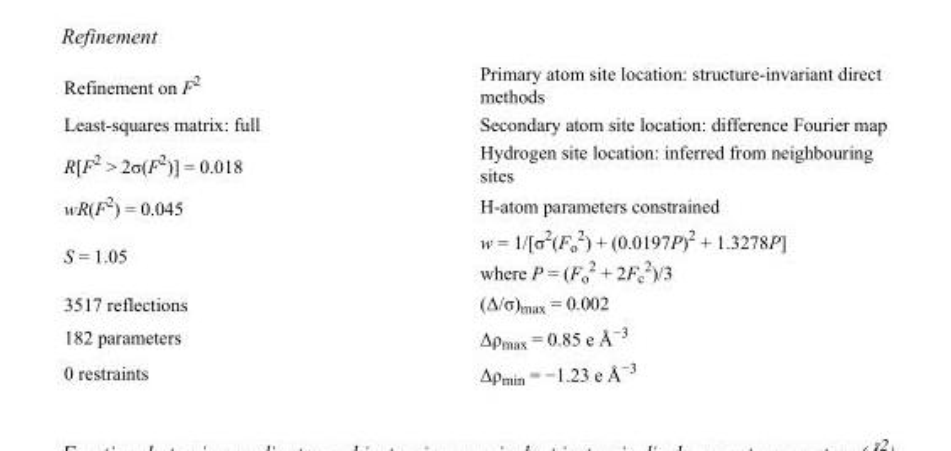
<table><tbody><tr><td>Refinement on F<sup>2</sup></td><td>Primary atom site location: structure-invariant direct methods</td></tr><tr><td>Least-squares matrix: full</td><td>Secondary atom site location: difference Fourier map</td></tr><tr><td>R[F<sup>2</sup> &gt; 2σ(F<sup>2</sup>)] = 0.018</td><td>Hydrogen site location: inferred from neighbouring sites</td></tr><tr><td>wR(F<sup>2</sup>) = 0.045</td><td>H-atom parameters constrained</td></tr><tr><td>S = 1.05</td><td>w = 1/[σ<sup>2</sup>(F<sub>o</sub> <sup>2</sup>) + (0.0197P)<sup>2</sup> + 1.3278P] where P = (F<sub>o</sub> <sup>2</sup> + 2F<sub>c</sub> <sup>2</sup>)/3</td></tr><tr><td>3517 reflections</td><td>(Δ/σ)<sub>max</sub> = 0.002</td></tr><tr><td>182 parameters</td><td>Δρ<sub>max</sub> = 0.85 e Å<sup>−3</sup></td></tr><tr><td>0 restraints</td><td>Δρ<sub>min</sub> = −1.23 e Å<sup>−3</sup></td></tr></tbody></table>